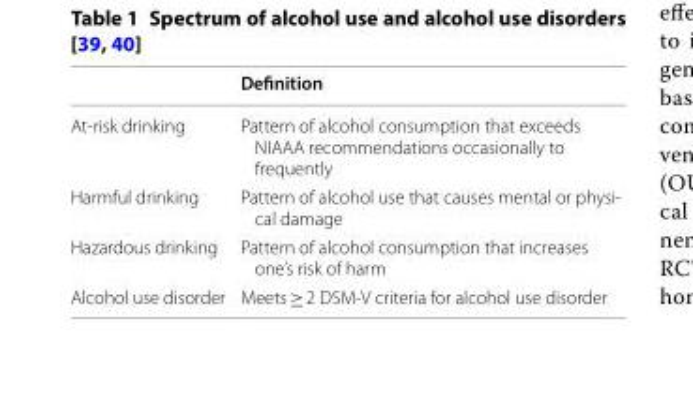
<table><thead><tr><td></td><td>Definition</td></tr></thead><tbody><tr><td>At-risk drinking</td><td>Pattern of alcohol consumption that exceeds NIAAA recommendations occasionally to frequently</td></tr><tr><td>Harmful drinking</td><td>Pattern of alcohol use that causes mental or physi- cal damage</td></tr><tr><td>Hazardous drinking</td><td>Pattern of alcohol consumption that increases one’s risk of harm</td></tr><tr><td>Alcohol use disorder</td><td>Meets ≥ 2 DSM-V criteria for alcohol use disorder</td></tr></tbody></table>